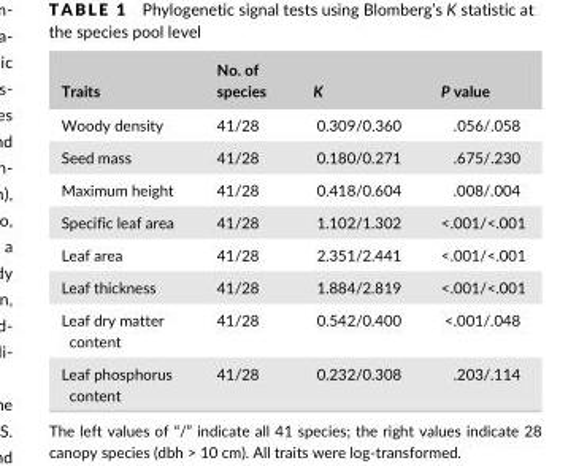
<table><thead><tr><td>Traits</td><td>No. of species</td><td>K</td><td>P value</td></tr></thead><tbody><tr><td>Woody density</td><td>41/28</td><td>0.309/0.360</td><td>.056/.058</td></tr><tr><td>Seed mass</td><td>41/28</td><td>0.180/0.271</td><td>.675/.230</td></tr><tr><td>Maximum height</td><td>41/28</td><td>0.418/0.604</td><td>.008/.004</td></tr><tr><td>Specific leaf area</td><td>41/28</td><td>1.102/1.302</td><td>&lt;.001/&lt;.001</td></tr><tr><td>Leaf area</td><td>41/28</td><td>2.351/2.441</td><td>&lt;.001/&lt;.001</td></tr><tr><td>Leaf thickness</td><td>41/28</td><td>1.884/2.819</td><td>&lt;.001/&lt;.001</td></tr><tr><td>Leaf dry matter content</td><td>41/28</td><td>0.542/0.400</td><td>&lt;.001/.048</td></tr><tr><td>Leaf phosphorus content</td><td>41/28</td><td>0.232/0.308</td><td>.203/.114</td></tr></tbody></table>